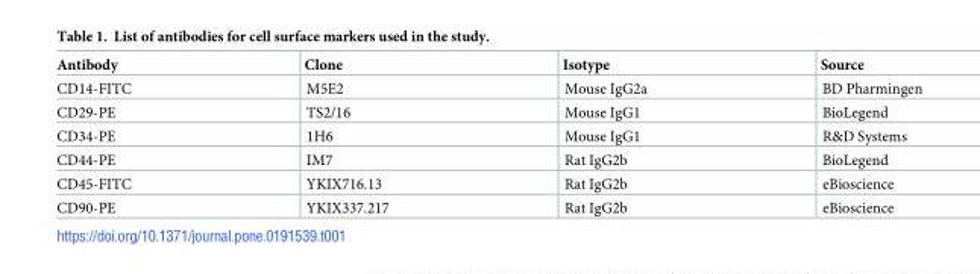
<table><thead><tr><td>Antibody</td><td>Clone</td><td>Isotype</td><td>Source</td></tr></thead><tbody><tr><td>CD14-FITC</td><td>M5E2</td><td>Mouse IgG2a</td><td>BD Pharmingen</td></tr><tr><td>CD29-PE</td><td>TS2/16</td><td>Mouse IgG1</td><td>BioLegend</td></tr><tr><td>CD34-PE</td><td>1H6</td><td>Mouse IgG1</td><td>R&amp;D Systems</td></tr><tr><td>CD44-PE</td><td>IM7</td><td>Rat IgG2b</td><td>BioLegend</td></tr><tr><td>CD45-FITC</td><td>YKIX716.13</td><td>Rat IgG2b</td><td>eBioscience</td></tr><tr><td>CD90-PE</td><td>YKIX337.217</td><td>Rat IgG2b</td><td>eBioscience</td></tr></tbody></table>